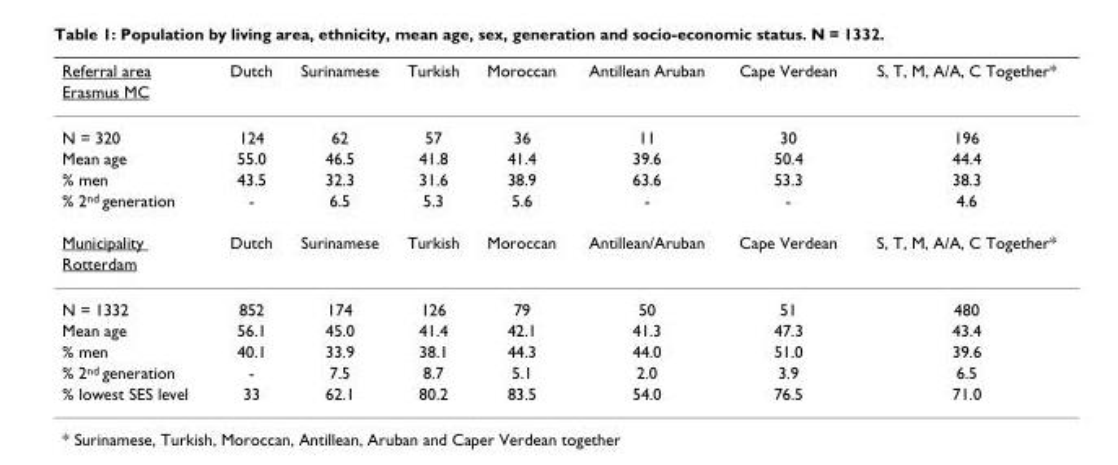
<table><thead><tr><td rowspan="2">Referral area Erasmus MC</td><td rowspan="2">Dutch</td><td rowspan="2">Surinamese</td><td rowspan="2">Turkish</td><td rowspan="2">Moroccan</td><td rowspan="2">Antillean Aruban</td><td rowspan="2">Cape Verdean</td><td rowspan="2">S, T, M, A/A, C Together*</td></tr><tr></tr></thead><tbody><tr><td>N = 320</td><td>124</td><td>62</td><td>57</td><td>36</td><td>11</td><td>30</td><td>196</td></tr><tr><td>Mean age</td><td>55.0</td><td>46.5</td><td>41.8</td><td>41.4</td><td>39.6</td><td>50.4</td><td>44.4</td></tr><tr><td>% men</td><td>43.5</td><td>32.3</td><td>31.6</td><td>38.9</td><td>63.6</td><td>53.3</td><td>38.3</td></tr><tr><td>% 2<sup>nd</sup> generation</td><td>-</td><td>6.5</td><td>5.3</td><td>5.6</td><td>-</td><td>-</td><td>4.6</td></tr><tr><td>Municipality</td><td>Dutch</td><td>Surinamese</td><td>Turkish</td><td>Moroccan</td><td>Antillean/Aruban</td><td>Cape Verdean</td><td>S, T, M, A/A, C Together*</td></tr><tr><td colspan="8">Rotterdam</td></tr><tr><td>N = 1332</td><td>852</td><td>174</td><td>126</td><td>79</td><td>50</td><td>51</td><td>480</td></tr><tr><td>Mean age</td><td>56.1</td><td>45.0</td><td>41.4</td><td>42.1</td><td>41.3</td><td>47.3</td><td>43.4</td></tr><tr><td>% men</td><td>40.1</td><td>33.9</td><td>38.1</td><td>44.3</td><td>44.0</td><td>51.0</td><td>39.6</td></tr><tr><td>% 2<sup>nd</sup> generation</td><td>-</td><td>7.5</td><td>8.7</td><td>5.1</td><td>2.0</td><td>3.9</td><td>6.5</td></tr><tr><td>% lowest SES level</td><td>33</td><td>62.1</td><td>80.2</td><td>83.5</td><td>54.0</td><td>76.5</td><td>71.0</td></tr></tbody></table>